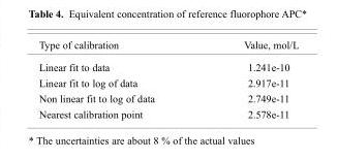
<table><thead><tr><td>Type of calibration</td><td>Value, mol/L</td></tr></thead><tbody><tr><td>Linear fit to data</td><td>1.241e-10</td></tr><tr><td>Linear fit to log of data</td><td>2.917e-11</td></tr><tr><td>Non linear fit to log of data</td><td>2.749e-11</td></tr><tr><td>Nearest calibration point</td><td>2.578e-11</td></tr></tbody></table>